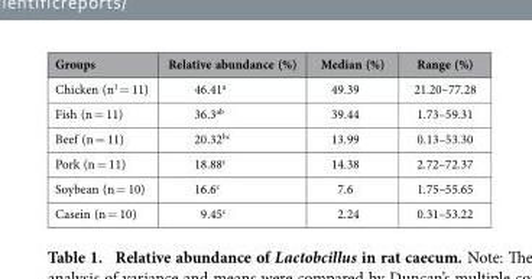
<table><thead><tr><td>Groups</td><td>Relative abundance (%)</td><td>Median (%)</td><td>Range (%)</td></tr></thead><tbody><tr><td>Chicken (n<sup>1</sup> = 11)</td><td>46.41<sup>a</sup></td><td>49.39</td><td>21.20–77.28</td></tr><tr><td>Fish (n = 11)</td><td>36.3<sup>ab</sup></td><td>39.44</td><td>1.73–59.31</td></tr><tr><td>Beef (n = 11)</td><td>20.32<sup>bc</sup></td><td>13.99</td><td>0.13–53.30</td></tr><tr><td>Pork (n = 11)</td><td>18.88<sup>c</sup></td><td>14.38</td><td>2.72–72.37</td></tr><tr><td>Soybean (n = 10)</td><td>16.6<sup>c</sup></td><td>7.6</td><td>1.75–55.65</td></tr><tr><td>Casein (n = 10)</td><td>9.45<sup>c</sup></td><td>2.24</td><td>0.31–53.22</td></tr></tbody></table>